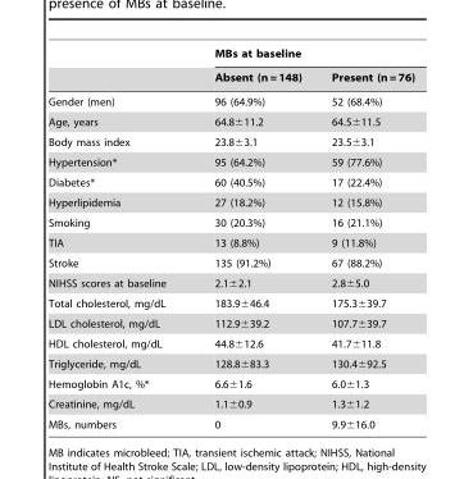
<table><thead><tr><td rowspan="2"></td><td colspan="2">MBs at baseline</td></tr><tr><td>Absent (n = 148)</td><td>Present (n = 76)</td></tr></thead><tbody><tr><td>Gender (men)</td><td>96 (64.9%)</td><td>52 (68.4%)</td></tr><tr><td>Age, years</td><td>64.8±11.2</td><td>64.5±11.5</td></tr><tr><td>Body mass index</td><td>23.8±3.1</td><td>23.5±3.1</td></tr><tr><td>Hypertension*</td><td>95 (64.2%)</td><td>59 (77.6%)</td></tr><tr><td>Diabetes*</td><td>60 (40.5%)</td><td>17 (22.4%)</td></tr><tr><td>Hyperlipidemia</td><td>27 (18.2%)</td><td>12 (15.8%)</td></tr><tr><td>Smoking</td><td>30 (20.3%)</td><td>16 (21.1%)</td></tr><tr><td>TIA</td><td>13 (8.8%)</td><td>9 (11.8%)</td></tr><tr><td>Stroke</td><td>135 (91.2%)</td><td>67 (88.2%)</td></tr><tr><td>NIHSS scores at baseline</td><td>2.1±2.1</td><td>2.8±5.0</td></tr><tr><td>Total cholesterol, mg/dL</td><td>183.9±46.4</td><td>175.3±39.7</td></tr><tr><td>LDL cholesterol, mg/dL</td><td>112.9±39.2</td><td>107.7±39.7</td></tr><tr><td>HDL cholesterol, mg/dL</td><td>44.8±12.6</td><td>41.7±11.8</td></tr><tr><td>Triglyceride, mg/dL</td><td>128.8±83.3</td><td>130.4±92.5</td></tr><tr><td>Hemoglobin A1c, %*</td><td>6.6±1.6</td><td>6.0±1.3</td></tr><tr><td>Creatinine, mg/dL</td><td>1.1±0.9</td><td>1.3±1.2</td></tr><tr><td>MBs, numbers</td><td>0</td><td>9.9±16.0</td></tr></tbody></table>